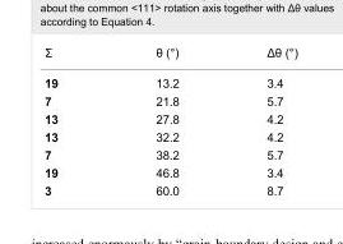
<table><tbody><tr><td>Σ</td><td>θ (°)</td><td>Δθ (°)</td></tr><tr><td>19</td><td>13.2</td><td>3.4</td></tr><tr><td>7</td><td>21.8</td><td>5.7</td></tr><tr><td>13</td><td>27.8</td><td>4.2</td></tr><tr><td>13</td><td>32.2</td><td>4.2</td></tr><tr><td>7</td><td>38.2</td><td>5.7</td></tr><tr><td>19</td><td>46.8</td><td>3.4</td></tr><tr><td>3</td><td>60.0</td><td>8.7</td></tr></tbody></table>